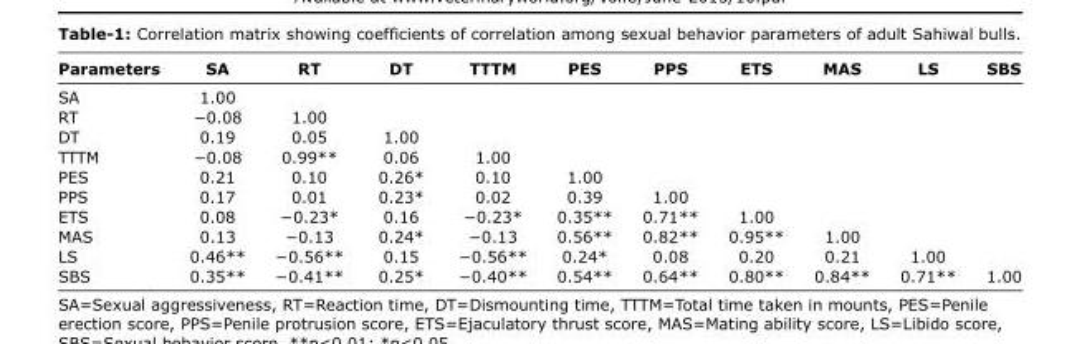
<table><thead><tr><td>Parameters</td><td>SA</td><td>RT</td><td>DT</td><td>TTTM</td><td>PES</td><td>PPS</td><td>ETS</td><td>MAS</td><td>LS</td><td>SBS</td></tr></thead><tbody><tr><td>SA</td><td>1.00</td><td></td><td></td><td></td><td></td><td></td><td></td><td></td><td></td><td></td></tr><tr><td>RT</td><td>−0.08</td><td>1.00</td><td></td><td></td><td></td><td></td><td></td><td></td><td></td><td></td></tr><tr><td>DT</td><td>0.19</td><td>0.05</td><td>1.00</td><td></td><td></td><td></td><td></td><td></td><td></td><td></td></tr><tr><td>TTTM</td><td>−0.08</td><td>0.99**</td><td>0.06</td><td>1.00</td><td></td><td></td><td></td><td></td><td></td><td></td></tr><tr><td>PES</td><td>0.21</td><td>0.10</td><td>0.26*</td><td>0.10</td><td>1.00</td><td></td><td></td><td></td><td></td><td></td></tr><tr><td>PPS</td><td>0.17</td><td>0.01</td><td>0.23*</td><td>0.02</td><td>0.39</td><td>1.00</td><td></td><td></td><td></td><td></td></tr><tr><td>ETS</td><td>0.08</td><td>−0.23*</td><td>0.16</td><td>−0.23*</td><td>0.35**</td><td>0.71**</td><td>1.00</td><td></td><td></td><td></td></tr><tr><td>MAS</td><td>0.13</td><td>−0.13</td><td>0.24*</td><td>−0.13</td><td>0.56**</td><td>0.82**</td><td>0.95**</td><td>1.00</td><td></td><td></td></tr><tr><td>LS</td><td>0.46**</td><td>−0.56**</td><td>0.15</td><td>−0.56**</td><td>0.24*</td><td>0.08</td><td>0.20</td><td>0.21</td><td>1.00</td><td></td></tr><tr><td>SBS</td><td>0.35**</td><td>−0.41**</td><td>0.25*</td><td>−0.40**</td><td>0.54**</td><td>0.64**</td><td>0.80**</td><td>0.84**</td><td>0.71**</td><td>1.00</td></tr></tbody></table>